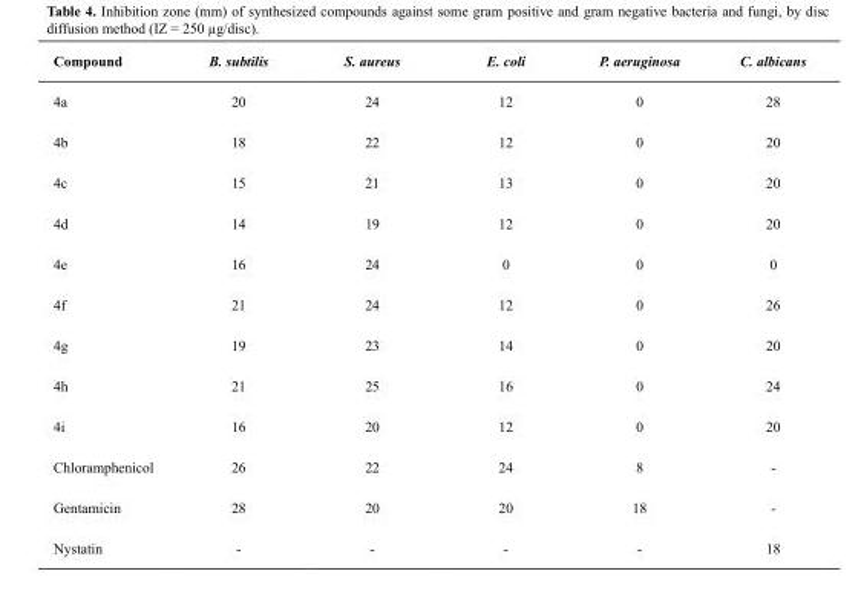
<table><thead><tr><td>Compound</td><td>B. subtilis</td><td>S. aureus</td><td>E. coli</td><td>P. aeruginosa</td><td>C. albicans</td></tr></thead><tbody><tr><td>4a</td><td>20</td><td>24</td><td>12</td><td>0</td><td>28</td></tr><tr><td>4b</td><td>18</td><td>22</td><td>12</td><td>0</td><td>20</td></tr><tr><td>4c</td><td>15</td><td>21</td><td>13</td><td>0</td><td>20</td></tr><tr><td>4d</td><td>14</td><td>19</td><td>12</td><td>0</td><td>20</td></tr><tr><td>4e</td><td>16</td><td>24</td><td>0</td><td>0</td><td>0</td></tr><tr><td>4f</td><td>21</td><td>24</td><td>12</td><td>0</td><td>26</td></tr><tr><td>4g</td><td>19</td><td>23</td><td>14</td><td>0</td><td>20</td></tr><tr><td>4h</td><td>21</td><td>25</td><td>16</td><td>0</td><td>24</td></tr><tr><td>4i</td><td>16</td><td>20</td><td>12</td><td>0</td><td>20</td></tr><tr><td>Chloramphenicol</td><td>26</td><td>22</td><td>24</td><td>8</td><td>-</td></tr><tr><td>Gentamicin</td><td>28</td><td>20</td><td>20</td><td>18</td><td>-</td></tr><tr><td>Nystatin</td><td>-</td><td>-</td><td>-</td><td>-</td><td>18</td></tr></tbody></table>